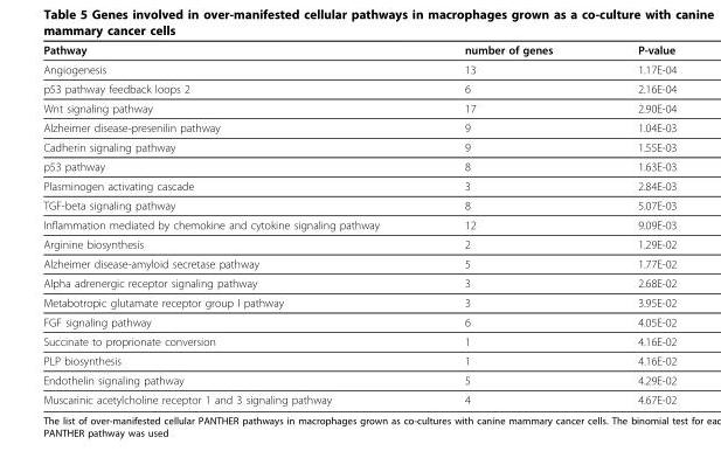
<table><thead><tr><td>Pathway</td><td>number of genes</td><td>P-value</td></tr></thead><tbody><tr><td>Angiogenesis</td><td>13</td><td>1.17E-04</td></tr><tr><td>p53 pathway feedback loops 2</td><td>6</td><td>2.16E-04</td></tr><tr><td>Wnt signaling pathway</td><td>17</td><td>2.90E-04</td></tr><tr><td>Alzheimer disease-presenilin pathway</td><td>9</td><td>1.04E-03</td></tr><tr><td>Cadherin signaling pathway</td><td>9</td><td>1.55E-03</td></tr><tr><td>p53 pathway</td><td>8</td><td>1.63E-03</td></tr><tr><td>Plasminogen activating cascade</td><td>3</td><td>2.84E-03</td></tr><tr><td>TGF-beta signaling pathway</td><td>8</td><td>5.07E-03</td></tr><tr><td>Inflammation mediated by chemokine and cytokine signaling pathway</td><td>12</td><td>9.09E-03</td></tr><tr><td>Arginine biosynthesis</td><td>2</td><td>1.29E-02</td></tr><tr><td>Alzheimer disease-amyloid secretase pathway</td><td>5</td><td>1.77E-02</td></tr><tr><td>Alpha adrenergic receptor signaling pathway</td><td>3</td><td>2.68E-02</td></tr><tr><td>Metabotropic glutamate receptor group I pathway</td><td>3</td><td>3.95E-02</td></tr><tr><td>FGF signaling pathway</td><td>6</td><td>4.05E-02</td></tr><tr><td>Succinate to proprionate conversion</td><td>1</td><td>4.16E-02</td></tr><tr><td>PLP biosynthesis</td><td>1</td><td>4.16E-02</td></tr><tr><td>Endothelin signaling pathway</td><td>5</td><td>4.29E-02</td></tr><tr><td>Muscarinic acetylcholine receptor 1 and 3 signaling pathway</td><td>4</td><td>4.67E-02</td></tr></tbody></table>